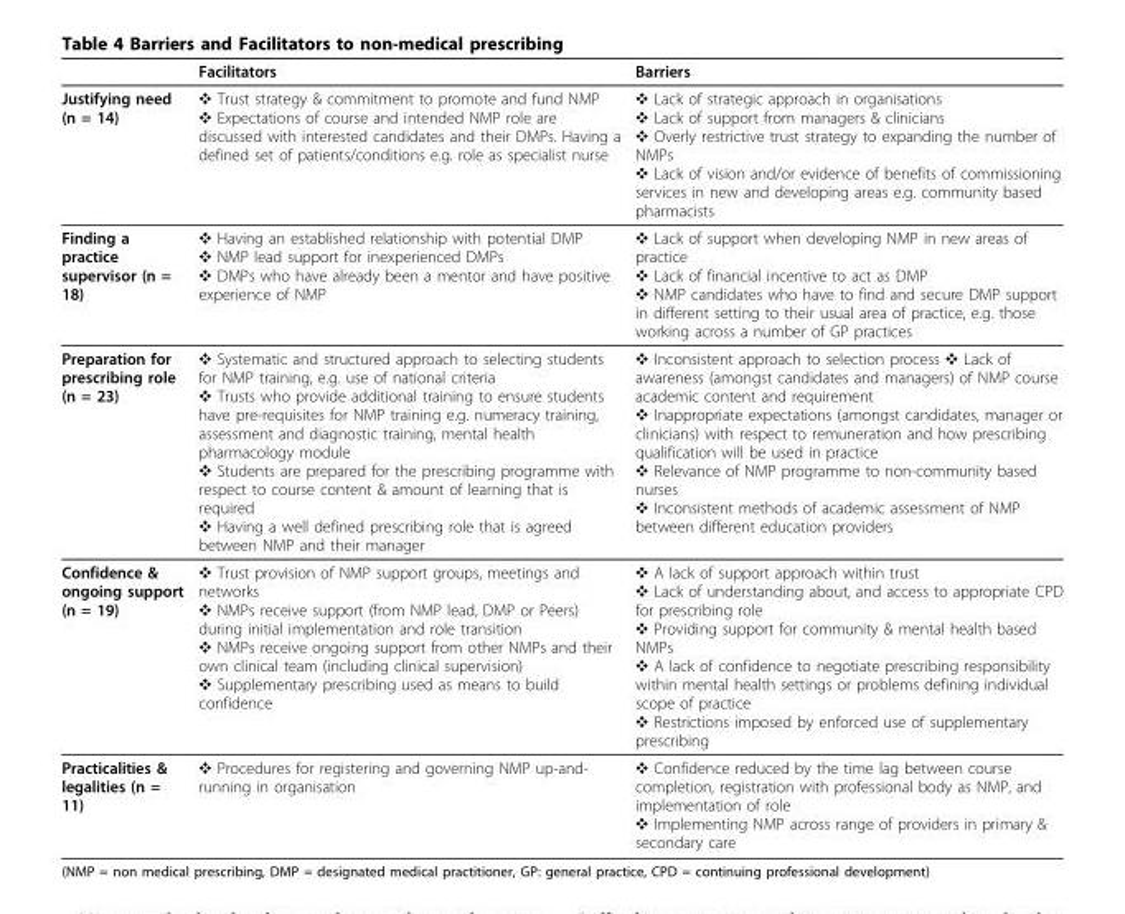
<table><thead><tr><td></td><td>Facilitators</td><td>Barriers</td></tr></thead><tbody><tr><td>Justifying need (n = 14)</td><td>❖ Trust strategy &amp; commitment to promote and fund NMP ❖ Expectations of course and intended NMP role are discussed with interested candidates and their DMPs. Having a defined set of patients/conditions e.g. role as specialist nurse</td><td>❖ Lack of strategic approach in organisations ❖ Lack of support from managers &amp; clinicians ❖ Overly restrictive trust strategy to expanding the number of NMPs ❖ Lack of vision and/or evidence of benefits of commissioning services in new and developing areas e.g. community based pharmacists</td></tr><tr><td>Finding a practice supervisor (n = 18)</td><td>❖ Having an established relationship with potential DMP ❖ NMP lead support for inexperienced DMPs ❖ DMPs who have already been a mentor and have positive experience of NMP</td><td>❖ Lack of support when developing NMP in new areas of practice ❖ Lack of financial incentive to act as DMP ❖ NMP candidates who have to find and secure DMP support in different setting to their usual area of practice, e.g. those working across a number of GP practices</td></tr><tr><td>Preparation for prescribing role (n = 23)</td><td>❖ Systematic and structured approach to selecting students for NMP training, e.g. use of national criteria ❖ Trusts who provide additional training to ensure students have pre-requisites for NMP training e.g. numeracy training, assessment and diagnostic training, mental health pharmacology module ❖ Students are prepared for the prescribing programme with respect to course content &amp; amount of learning that is required ❖ Having a well defined prescribing role that is agreed between NMP and their manager</td><td>❖ Inconsistent approach to selection process ❖ Lack of awareness (amongst candidates and managers) of NMP course academic content and requirement ❖ Inappropriate expectations (amongst candidates, manager or clinicians) with respect to remuneration and how prescribing qualification will be used in practice ❖ Relevance of NMP programme to non-community based nurses ❖ Inconsistent methods of academic assessment of NMP between different education providers</td></tr><tr><td>Confidence &amp; ongoing support (n = 19)</td><td>❖ Trust provision of NMP support groups, meetings and networks ❖ NMPs receive support (from NMP lead, DMP or Peers) during initial implementation and role transition ❖ NMPs receive ongoing support from other NMPs and their own clinical team (including clinical supervision) ❖ Supplementary prescribing used as means to build confidence</td><td>❖ A lack of support approach within trust ❖ Lack of understanding about, and access to appropriate CPD for prescribing role ❖ Providing support for community &amp; mental health based NMPs ❖ A lack of confidence to negotiate prescribing responsibility within mental health settings or problems defining individual scope of practice ❖ Restrictions imposed by enforced use of supplementary prescribing</td></tr><tr><td>Practicalities &amp; legalities (n = 11)</td><td>❖ Procedures for registering and governing NMP up-and- running in organisation</td><td>❖ Confidence reduced by the time lag between course completion, registration with professional body as NMP, and implementation of role ❖ Implementing NMP across range of providers in primary &amp; secondary care</td></tr></tbody></table>